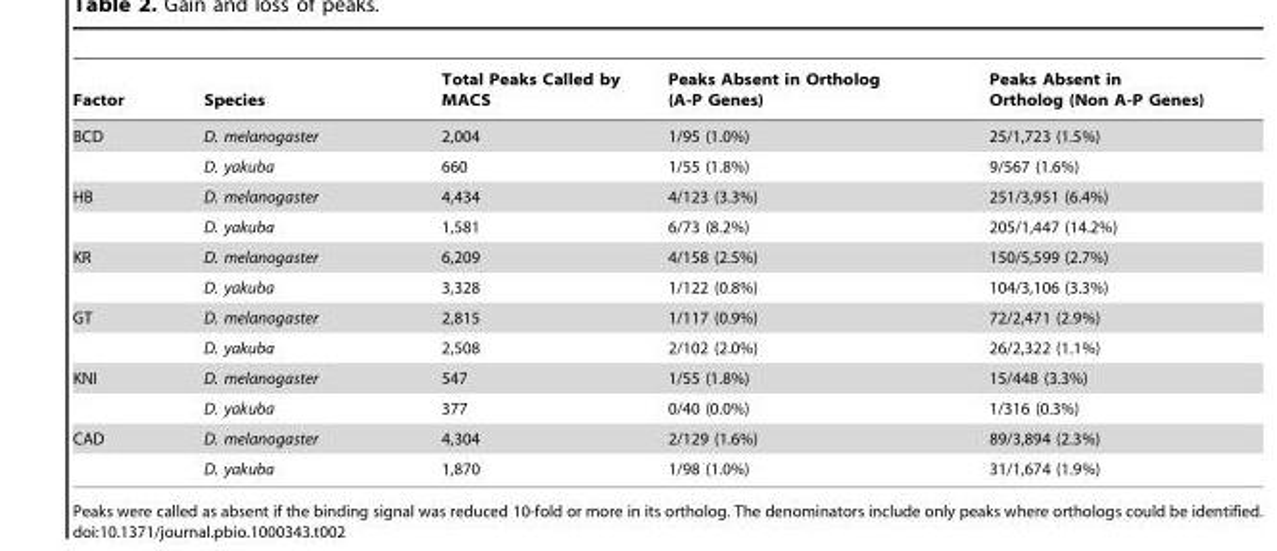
<table><thead><tr><td>Factor</td><td>Species</td><td>Total Peaks Called by MACS</td><td>Peaks Absent in Ortholog (A-P Genes)</td><td>Peaks Absent in Ortholog (Non A-P Genes)</td></tr></thead><tbody><tr><td rowspan="2">BCD</td><td>D. melanogaster</td><td>2,004</td><td>1/95 (1.0%)</td><td>25/1,723 (1.5%)</td></tr><tr><td>D. yakuba</td><td>660</td><td>1/55 (1.8%)</td><td>9/567 (1.6%)</td></tr><tr><td rowspan="2">HB</td><td>D. melanogaster</td><td>4,434</td><td>4/123 (3.3%)</td><td>251/3,951 (6.4%)</td></tr><tr><td>D. yakuba</td><td>1,581</td><td>6/73 (8.2%)</td><td>205/1,447 (14.2%)</td></tr><tr><td rowspan="2">KR</td><td>D. melanogaster</td><td>6,209</td><td>4/158 (2.5%)</td><td>150/5,599 (2.7%)</td></tr><tr><td>D. yakuba</td><td>3,328</td><td>1/122 (0.8%)</td><td>104/3,106 (3.3%)</td></tr><tr><td rowspan="2">GT</td><td>D. melanogaster</td><td>2,815</td><td>1/117 (0.9%)</td><td>72/2,471 (2.9%)</td></tr><tr><td>D. yakuba</td><td>2,508</td><td>2/102 (2.0%)</td><td>26/2,322 (1.1%)</td></tr><tr><td rowspan="2">KNI</td><td>D. melanogaster</td><td>547</td><td>1/55 (1.8%)</td><td>15/448 (3.3%)</td></tr><tr><td>D. yakuba</td><td>377</td><td>0/40 (0.0%)</td><td>1/316 (0.3%)</td></tr><tr><td rowspan="2">CAD</td><td>D. melanogaster</td><td>4,304</td><td>2/129 (1.6%)</td><td>89/3,894 (2.3%)</td></tr><tr><td>D. yakuba</td><td>1,870</td><td>1/98 (1.0%)</td><td>31/1,674 (1.9%)</td></tr></tbody></table>